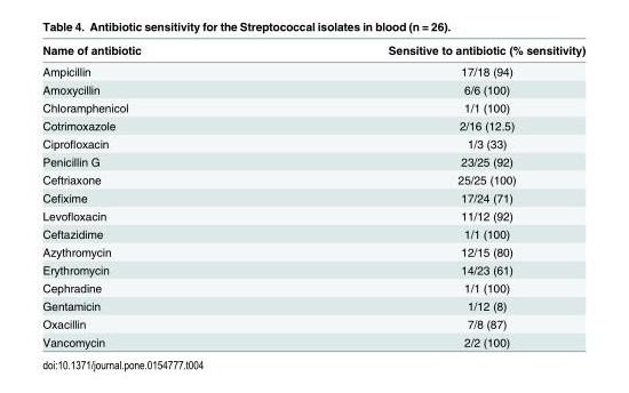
<table><thead><tr><td>Name of antibiotic</td><td>Sensitive to antibiotic (% sensitivity)</td></tr></thead><tbody><tr><td>Ampicillin</td><td>17/18 (94)</td></tr><tr><td>Amoxycillin</td><td>6/6 (100)</td></tr><tr><td>Chloramphenicol</td><td>1/1 (100)</td></tr><tr><td>Cotrimoxazole</td><td>2/16 (12.5)</td></tr><tr><td>Ciprofloxacin</td><td>1/3 (33)</td></tr><tr><td>Penicillin G</td><td>23/25 (92)</td></tr><tr><td>Ceftriaxone</td><td>25/25 (100)</td></tr><tr><td>Cefixime</td><td>17/24 (71)</td></tr><tr><td>Levofloxacin</td><td>11/12 (92)</td></tr><tr><td>Ceftazidime</td><td>1/1 (100)</td></tr><tr><td>Azythromycin</td><td>12/15 (80)</td></tr><tr><td>Erythromycin</td><td>14/23 (61)</td></tr><tr><td>Cephradine</td><td>1/1 (100)</td></tr><tr><td>Gentamicin</td><td>1/12 (8)</td></tr><tr><td>Oxacillin</td><td>7/8 (87)</td></tr><tr><td>Vancomycin</td><td>2/2 (100)</td></tr></tbody></table>